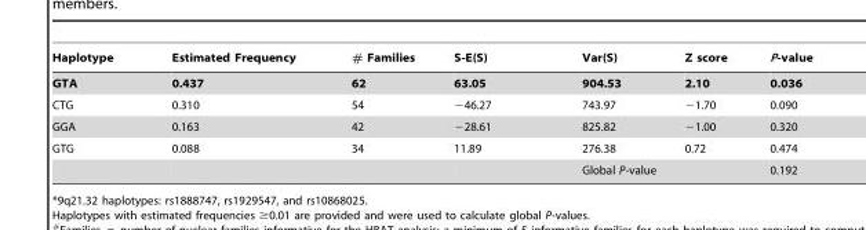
<table><thead><tr><td>Haplotype</td><td>Estimated Frequency</td><td># Families</td><td>S-E(S)</td><td>Var(S)</td><td>Z score</td><td>P-value</td></tr></thead><tbody><tr><td>GTA</td><td>0.437</td><td>62</td><td>63.05</td><td>904.53</td><td>2.10</td><td>0.036</td></tr><tr><td>CTG</td><td>0.310</td><td>54</td><td>−46.27</td><td>743.97</td><td>−1.70</td><td>0.090</td></tr><tr><td>GGA</td><td>0.163</td><td>42</td><td>−28.61</td><td>825.82</td><td>−1.00</td><td>0.320</td></tr><tr><td rowspan="2">GTG</td><td>0.088</td><td>34</td><td>11.89</td><td>276.38</td><td>0.72</td><td>0.474</td></tr><tr><td></td><td></td><td></td><td colspan="2">Global P-value</td><td>0.192</td></tr></tbody></table>